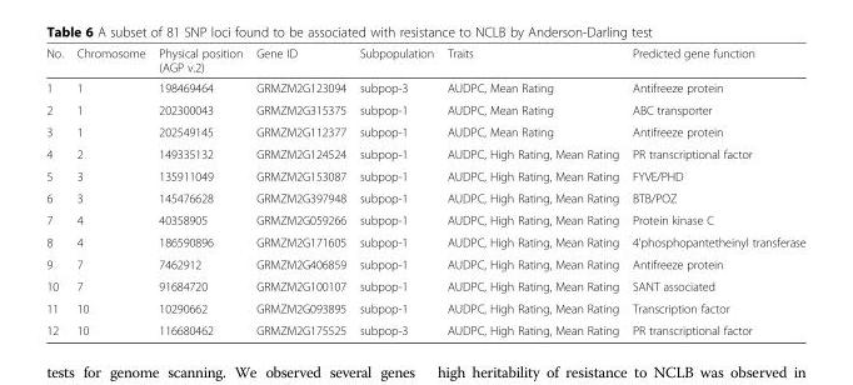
<table><thead><tr><td>No.</td><td>Chromosome</td><td>Physical position (AGP v.2)</td><td>Gene ID</td><td>Subpopulation</td><td>Traits</td><td>Predicted gene function</td></tr></thead><tbody><tr><td>1</td><td>1</td><td>198469464</td><td>GRMZM2G123094</td><td>subpop-3</td><td>AUDPC, Mean Rating</td><td>Antifreeze protein</td></tr><tr><td>2</td><td>1</td><td>202300043</td><td>GRMZM2G315375</td><td>subpop-1</td><td>AUDPC, Mean Rating</td><td>ABC transporter</td></tr><tr><td>3</td><td>1</td><td>202549145</td><td>GRMZM2G112377</td><td>subpop-1</td><td>AUDPC, Mean Rating</td><td>Antifreeze protein</td></tr><tr><td>4</td><td>2</td><td>149335132</td><td>GRMZM2G124524</td><td>subpop-1</td><td>AUDPC, High Rating, Mean Rating</td><td>PR transcriptional factor</td></tr><tr><td>5</td><td>3</td><td>135911049</td><td>GRMZM2G153087</td><td>subpop-1</td><td>AUDPC, High Rating, Mean Rating</td><td>FYVE/PHD</td></tr><tr><td>6</td><td>3</td><td>145476628</td><td>GRMZM2G397948</td><td>subpop-1</td><td>AUDPC, High Rating, Mean Rating</td><td>BTB/POZ</td></tr><tr><td>7</td><td>4</td><td>40358905</td><td>GRMZM2G059266</td><td>subpop-1</td><td>AUDPC, High Rating, Mean Rating</td><td>Protein kinase C</td></tr><tr><td>8</td><td>4</td><td>186590896</td><td>GRMZM2G171605</td><td>subpop-1</td><td>AUDPC, High Rating, Mean Rating</td><td>4&#x27;phosphopantetheinyl transferase</td></tr><tr><td>9</td><td>7</td><td>7462912</td><td>GRMZM2G406859</td><td>subpop-1</td><td>AUDPC, High Rating, Mean Rating</td><td>Antifreeze protein</td></tr><tr><td>10</td><td>7</td><td>91684720</td><td>GRMZM2G100107</td><td>subpop-1</td><td>AUDPC, High Rating, Mean Rating</td><td>SANT associated</td></tr><tr><td>11</td><td>10</td><td>10290662</td><td>GRMZM2G093895</td><td>subpop-1</td><td>AUDPC, High Rating, Mean Rating</td><td>Transcription factor</td></tr><tr><td>12</td><td>10</td><td>116680462</td><td>GRMZM2G175525</td><td>subpop-3</td><td>AUDPC, High Rating, Mean Rating</td><td>PR transcriptional factor</td></tr></tbody></table>